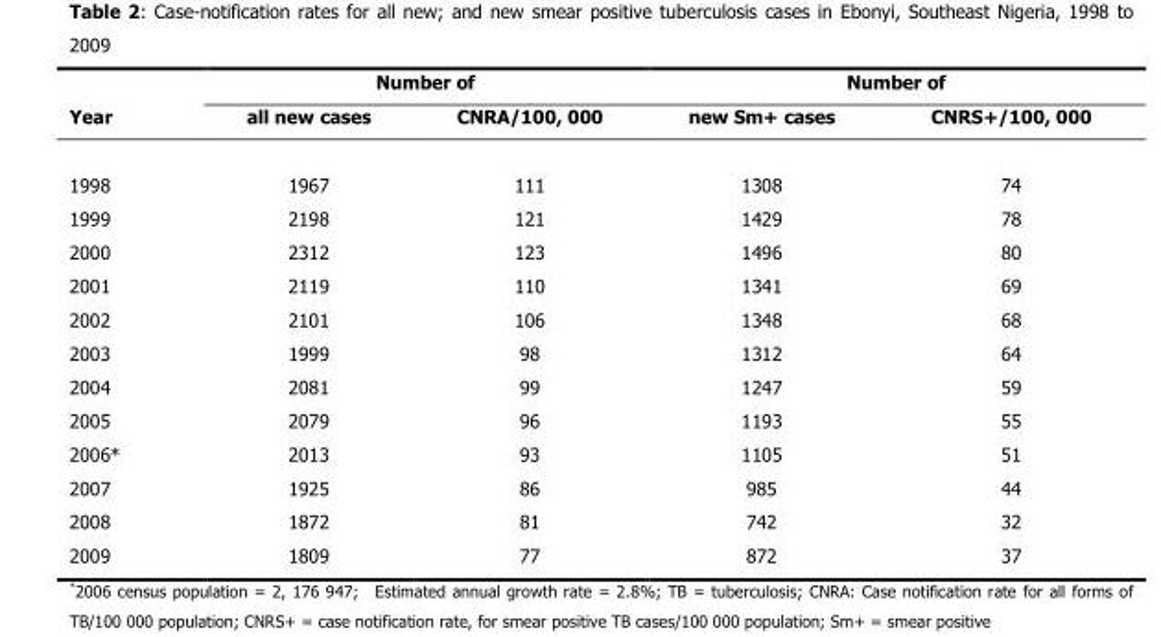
<table><thead><tr><td rowspan="2">Year</td><td colspan="2">Number of</td><td colspan="2">Number of</td></tr><tr><td>all new cases</td><td>CNRA/100, 000</td><td>new Sm+ cases</td><td>CNRS+/100, 000</td></tr></thead><tbody><tr><td>1998</td><td>1967</td><td>111</td><td>1308</td><td>74</td></tr><tr><td>1999</td><td>2198</td><td>121</td><td>1429</td><td>78</td></tr><tr><td>2000</td><td>2312</td><td>123</td><td>1496</td><td>80</td></tr><tr><td>2001</td><td>2119</td><td>110</td><td>1341</td><td>69</td></tr><tr><td>2002</td><td>2101</td><td>106</td><td>1348</td><td>68</td></tr><tr><td>2003</td><td>1999</td><td>98</td><td>1312</td><td>64</td></tr><tr><td>2004</td><td>2081</td><td>99</td><td>1247</td><td>59</td></tr><tr><td>2005</td><td>2079</td><td>96</td><td>1193</td><td>55</td></tr><tr><td>2006*</td><td>2013</td><td>93</td><td>1105</td><td>51</td></tr><tr><td>2007</td><td>1925</td><td>86</td><td>985</td><td>44</td></tr><tr><td>2008</td><td>1872</td><td>81</td><td>742</td><td>32</td></tr><tr><td>2009</td><td>1809</td><td>77</td><td>872</td><td>37</td></tr></tbody></table>